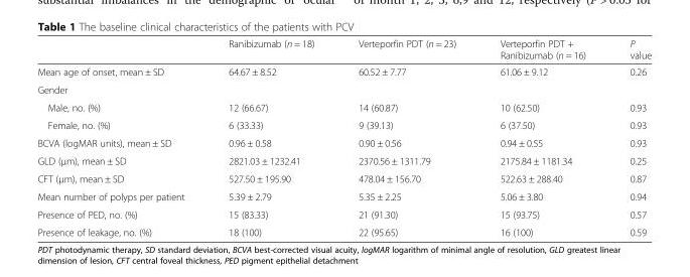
<table><thead><tr><td></td><td>Ranibizumab (n = 18)</td><td>Verteporfin PDT (n = 23)</td><td>Verteporfin PDT + Ranibizumab (n = 16)</td><td>P value</td></tr></thead><tbody><tr><td>Mean age of onset, mean ± SD</td><td>64.67 ± 8.52</td><td>60.52 ± 7.77</td><td>61.06 ± 9.12</td><td>0.26</td></tr><tr><td colspan="5">Gender</td></tr><tr><td>Male, no. (%)</td><td>12 (66.67)</td><td>14 (60.87)</td><td>10 (62.50)</td><td>0.93</td></tr><tr><td>Female, no. (%)</td><td>6 (33.33)</td><td>9 (39.13)</td><td>6 (37.50)</td><td>0.93</td></tr><tr><td>BCVA (logMAR units), mean ± SD</td><td>0.96 ± 0.58</td><td>0.90 ± 0.56</td><td>0.94 ± 0.55</td><td>0.93</td></tr><tr><td>GLD (μm), mean ± SD</td><td>2821.03 ± 1232.41</td><td>2370.56 ± 1311.79</td><td>2175.84 ± 1181.34</td><td>0.25</td></tr><tr><td>CFT (μm), mean ± SD</td><td>527.50 ± 195.90</td><td>478.04 ± 156.70</td><td>522.63 ± 288.40</td><td>0.87</td></tr><tr><td>Mean number of polyps per patient</td><td>5.39 ± 2.79</td><td>5.35 ± 2.25</td><td>5.06 ± 3.80</td><td>0.94</td></tr><tr><td>Presence of PED, no. (%)</td><td>15 (83.33)</td><td>21 (91.30)</td><td>15 (93.75)</td><td>0.57</td></tr><tr><td>Presence of leakage, no. (%)</td><td>18 (100)</td><td>22 (95.65)</td><td>16 (100)</td><td>0.59</td></tr></tbody></table>